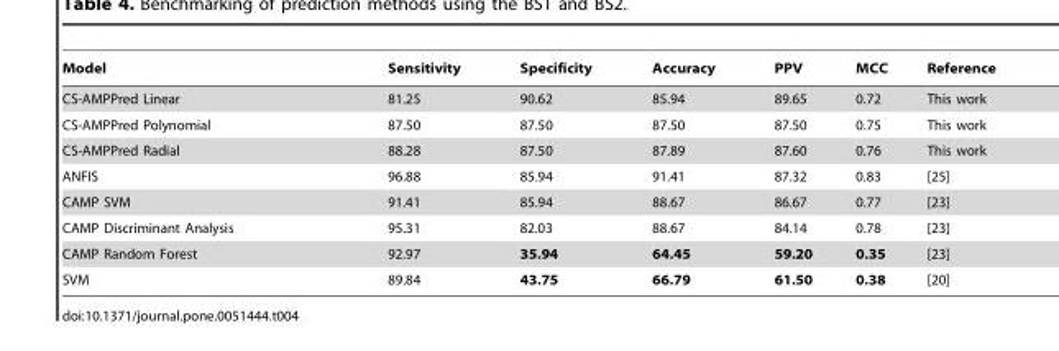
<table><thead><tr><td>Model</td><td>Sensitivity</td><td>Specificity</td><td>Accuracy</td><td>PPV</td><td>MCC</td><td>Reference</td></tr></thead><tbody><tr><td>CS-AMPPred Linear</td><td>81.25</td><td>90.62</td><td>85.94</td><td>89.65</td><td>0.72</td><td>This work</td></tr><tr><td>CS-AMPPred Polynomial</td><td>87.50</td><td>87.50</td><td>87.50</td><td>87.50</td><td>0.75</td><td>This work</td></tr><tr><td>CS-AMPPred Radial</td><td>88.28</td><td>87.50</td><td>87.89</td><td>87.60</td><td>0.76</td><td>This work</td></tr><tr><td>ANFIS</td><td>96.88</td><td>85.94</td><td>91.41</td><td>87.32</td><td>0.83</td><td>[25]</td></tr><tr><td>CAMP SVM</td><td>91.41</td><td>85.94</td><td>88.67</td><td>86.67</td><td>0.77</td><td>[23]</td></tr><tr><td>CAMP Discriminant Analysis</td><td>95.31</td><td>82.03</td><td>88.67</td><td>84.14</td><td>0.78</td><td>[23]</td></tr><tr><td>CAMP Random Forest</td><td>92.97</td><td>35.94</td><td>64.45</td><td>59.20</td><td>0.35</td><td>[23]</td></tr><tr><td>SVM</td><td>89.84</td><td>43.75</td><td>66.79</td><td>61.50</td><td>0.38</td><td>[20]</td></tr></tbody></table>